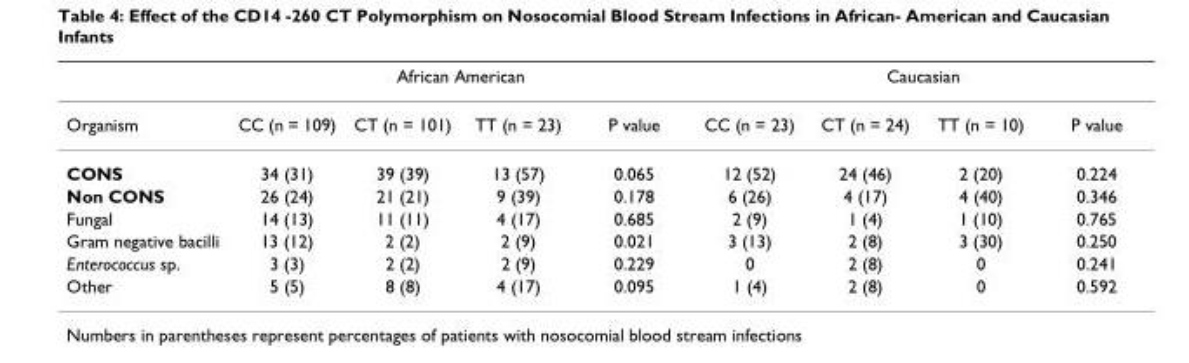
<table><thead><tr><td rowspan="2">Organism</td><td colspan="4">African American</td><td colspan="4">Caucasian</td></tr><tr><td>CC (n = 109)</td><td>CT (n = 101)</td><td>TT (n = 23)</td><td>P value</td><td>CC (n = 23)</td><td>CT (n = 24)</td><td>TT (n = 10)</td><td>P value</td></tr></thead><tbody><tr><td>CONS</td><td>34 (31)</td><td>39 (39)</td><td>13 (57)</td><td>0.065</td><td>12 (52)</td><td>24 (46)</td><td>2 (20)</td><td>0.224</td></tr><tr><td>Non CONS</td><td>26 (24)</td><td>21 (21)</td><td>9 (39)</td><td>0.178</td><td>6 (26)</td><td>4 (17)</td><td>4 (40)</td><td>0.346</td></tr><tr><td>Fungal</td><td>14 (13)</td><td>11 (11)</td><td>4 (17)</td><td>0.685</td><td>2 (9)</td><td>1 (4)</td><td>1 (10)</td><td>0.765</td></tr><tr><td>Gram negative bacilli</td><td>13 (12)</td><td>2 (2)</td><td>2 (9)</td><td>0.021</td><td>3 (13)</td><td>2 (8)</td><td>3 (30)</td><td>0.250</td></tr><tr><td>Enterococcus sp.</td><td>3 (3)</td><td>2 (2)</td><td>2 (9)</td><td>0.229</td><td>0</td><td>2 (8)</td><td>0</td><td>0.241</td></tr><tr><td>Other</td><td>5 (5)</td><td>8 (8)</td><td>4 (17)</td><td>0.095</td><td>1 (4)</td><td>2 (8)</td><td>0</td><td>0.592</td></tr></tbody></table>